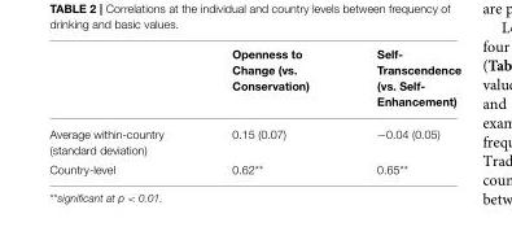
<table><thead><tr><td></td><td>Openness to Change (vs. Conservation)</td><td>Self- Transcendence (vs. Self- Enhancement)</td></tr></thead><tbody><tr><td>Average within-country (standard deviation)</td><td>0.15 (0.07)</td><td>−0.04 (0.05)</td></tr><tr><td>Country-level</td><td>0.62**</td><td>0.65**</td></tr></tbody></table>